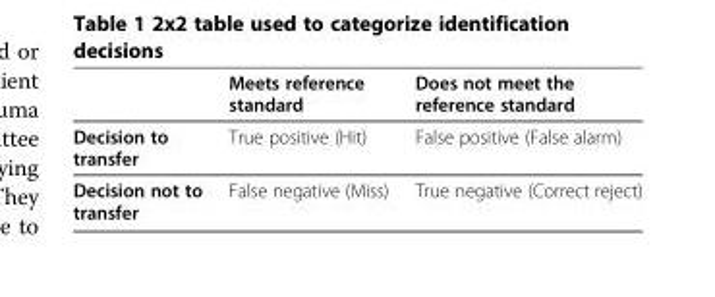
<table><thead><tr><td></td><td>Meets reference standard</td><td>Does not meet the reference standard</td></tr></thead><tbody><tr><td>Decision to transfer</td><td>True positive (Hit)</td><td>False positive (False alarm)</td></tr><tr><td>Decision not to transfer</td><td>False negative (Miss)</td><td>True negative (Correct reject)</td></tr></tbody></table>